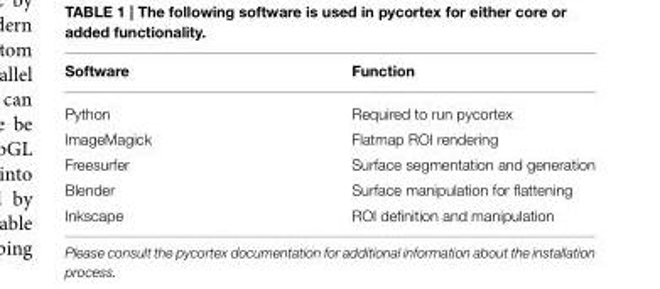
<table><thead><tr><td>Software</td><td>Function</td></tr></thead><tbody><tr><td>Python</td><td>Required to run pycortex</td></tr><tr><td>ImageMagick</td><td>Flatmap ROI rendering</td></tr><tr><td>Freesurfer</td><td>Surface segmentation and generation</td></tr><tr><td>Blender</td><td>Surface manipulation for flattening</td></tr><tr><td>Inkscape</td><td>ROI definition and manipulation</td></tr></tbody></table>